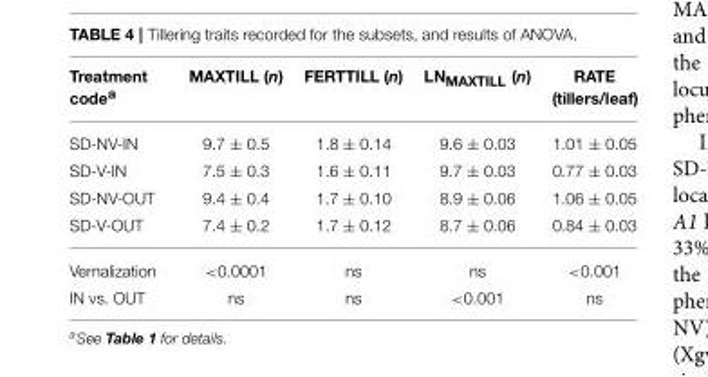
<table><thead><tr><td>Treatment code<sup>a</sup></td><td>MAXTILL (n)</td><td>FERTTILL (n)</td><td>LN<sub>MAXTILL</sub> (n)</td><td>RATE (tillers/leaf)</td></tr></thead><tbody><tr><td>SD-NV-IN</td><td>9.7 ± 0.5</td><td>1.8 ± 0.14</td><td>9.6 ± 0.03</td><td>1.01 ± 0.05</td></tr><tr><td>SD-V-IN</td><td>7.5 ± 0.3</td><td>1.6 ± 0.11</td><td>9.7 ± 0.03</td><td>0.77 ± 0.03</td></tr><tr><td>SD-NV-OUT</td><td>9.4 ± 0.4</td><td>1.7 ± 0.10</td><td>8.9 ± 0.06</td><td>1.06 ± 0.05</td></tr><tr><td>SD-V-OUT</td><td>7.4 ± 0.2</td><td>1.7 ± 0.12</td><td>8.7 ± 0.06</td><td>0.84 ± 0.03</td></tr><tr><td>Vernalization</td><td>&lt;0.0001</td><td>ns</td><td>ns</td><td>&lt;0.001</td></tr><tr><td>IN vs. OUT</td><td>ns</td><td>ns</td><td>&lt;0.001</td><td>ns</td></tr></tbody></table>